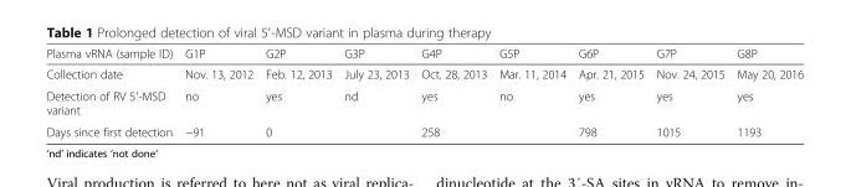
<table><thead><tr><td>Plasma vRNA (sample ID)</td><td>G1P</td><td>G2P</td><td>G3P</td><td>G4P</td><td>G5P</td><td>G6P</td><td>G7P</td><td>G8P</td></tr></thead><tbody><tr><td>Collection date</td><td>Nov. 13, 2012</td><td>Feb. 12, 2013</td><td>July 23, 2013</td><td>Oct. 28, 2013</td><td>Mar. 11, 2014</td><td>Apr. 21, 2015</td><td>Nov. 24, 2015</td><td>May 20, 2016</td></tr><tr><td>Detection of RV 5′-MSD variant</td><td>no</td><td>yes</td><td>nd</td><td>yes</td><td>no</td><td>yes</td><td>yes</td><td>yes</td></tr><tr><td>Days since first detection</td><td>−91</td><td>0</td><td></td><td>258</td><td></td><td>798</td><td>1015</td><td>1193</td></tr></tbody></table>